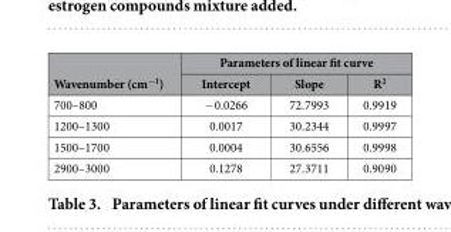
<table><thead><tr><td rowspan="2">Wavenumber (cm<sup>−1</sup>)</td><td colspan="3">Parameters of linear fit curve</td></tr><tr><td>Intercept</td><td>Slope</td><td>R<sup>2</sup></td></tr></thead><tbody><tr><td>700–800</td><td>− 0.0266</td><td>72.7993</td><td>0.9919</td></tr><tr><td>1200–1300</td><td>0.0017</td><td>30.2344</td><td>0.9997</td></tr><tr><td>1500–1700</td><td>0.0004</td><td>30.6556</td><td>0.9998</td></tr><tr><td>2900–3000</td><td>0.1278</td><td>27.3711</td><td>0.9090</td></tr></tbody></table>